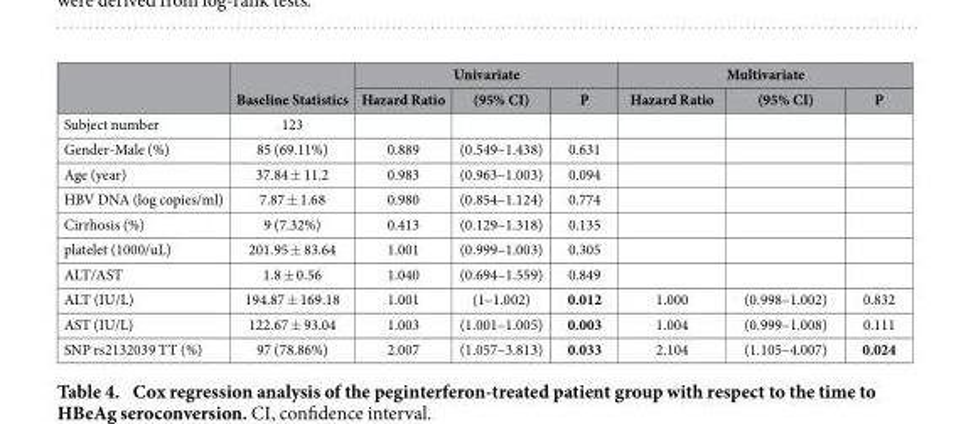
<table><thead><tr><td rowspan="2"></td><td rowspan="2">Baseline Statistics</td><td colspan="3">Univariate</td><td colspan="3">Multivariate</td></tr><tr><td>Hazard Ratio</td><td>(95% CI)</td><td>P</td><td>Hazard Ratio</td><td>(95% CI)</td><td>P</td></tr></thead><tbody><tr><td>Subject number</td><td>123</td><td></td><td></td><td></td><td></td><td></td><td></td></tr><tr><td>Gender-Male (%)</td><td>85 (69.11%)</td><td>0.889</td><td>(0.549–1.438)</td><td>0.631</td><td></td><td></td><td></td></tr><tr><td>Age (year)</td><td>37.84 ± 11.2</td><td>0.983</td><td>(0.963–1.003)</td><td>0.094</td><td></td><td></td><td></td></tr><tr><td>HBV DNA (log copies/ml)</td><td>7.87 ± 1.68</td><td>0.980</td><td>(0.854–1.124)</td><td>0.774</td><td></td><td></td><td></td></tr><tr><td>Cirrhosis (%)</td><td>9 (7.32%)</td><td>0.413</td><td>(0.129–1.318)</td><td>0.135</td><td></td><td></td><td></td></tr><tr><td>platelet (1000/uL)</td><td>201.95 ± 83.64</td><td>1.001</td><td>(0.999–1.003)</td><td>0.305</td><td></td><td></td><td></td></tr><tr><td>ALT/AST</td><td>1.8 ± 0.56</td><td>1.040</td><td>(0.694–1.559)</td><td>0.849</td><td></td><td></td><td></td></tr><tr><td>ALT (IU/L)</td><td>194.87 ± 169.18</td><td>1.001</td><td>(1–1.002)</td><td>0.012</td><td>1.000</td><td>(0.998–1.002)</td><td>0.832</td></tr><tr><td>AST (IU/L)</td><td>122.67 ± 93.04</td><td>1.003</td><td>(1.001–1.005)</td><td>0.003</td><td>1.004</td><td>(0.999–1.008)</td><td>0.111</td></tr><tr><td>SNP rs2132039 TT (%)</td><td>97 (78.86%)</td><td>2.007</td><td>(1.057–3.813)</td><td>0.033</td><td>2.104</td><td>(1.105–4.007)</td><td>0.024</td></tr></tbody></table>